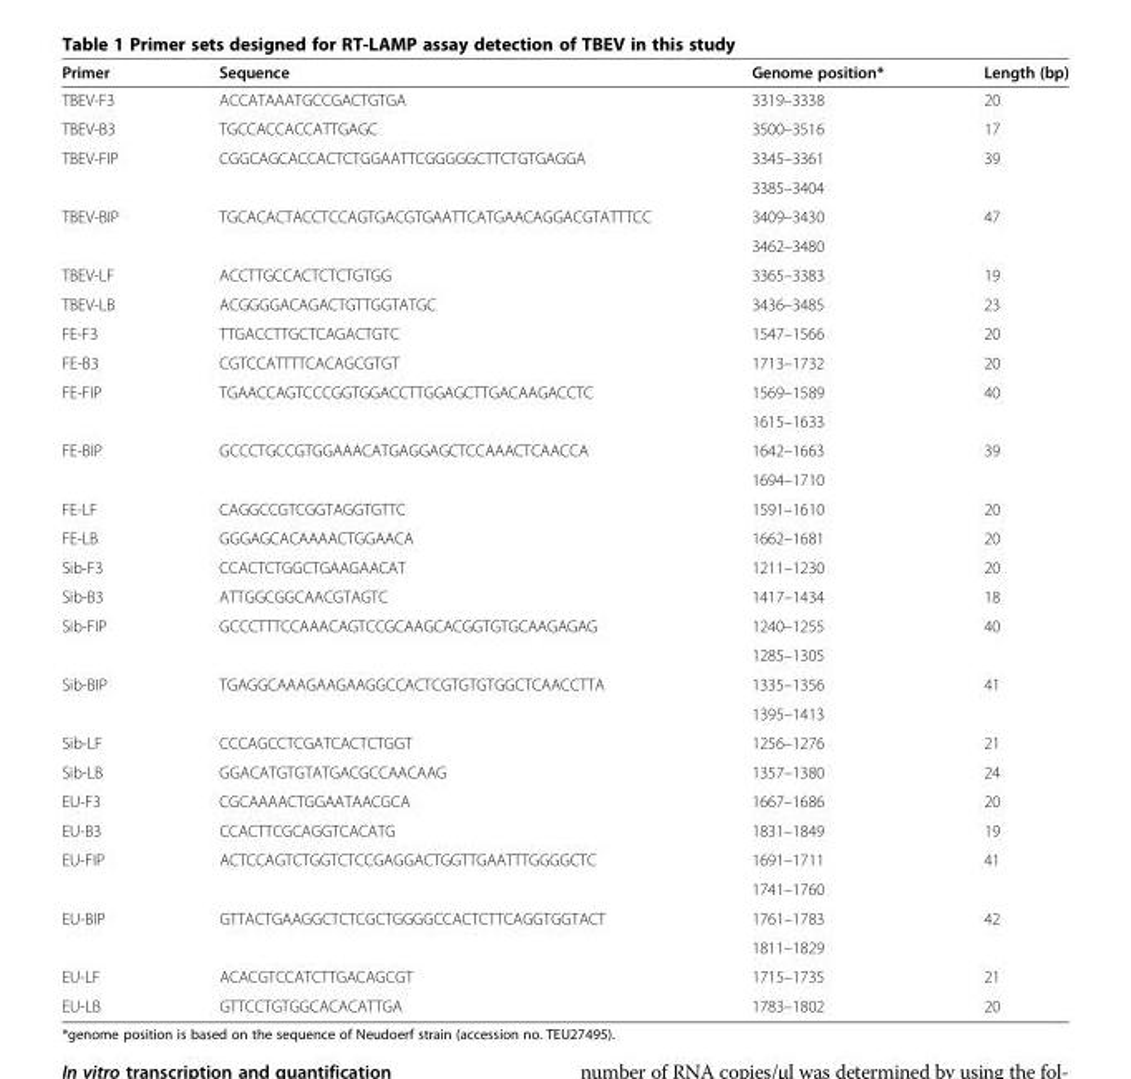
<table><thead><tr><td>Primer</td><td>Sequence</td><td>Genome position*</td><td>Length (bp)</td></tr></thead><tbody><tr><td>TBEV-F3</td><td>ACCATAAATGCCGACTGTGA</td><td>3319–3338</td><td>20</td></tr><tr><td>TBEV-B3</td><td>TGCCACCACCATTGAGC</td><td>3500–3516</td><td>17</td></tr><tr><td rowspan="2">TBEV-FIP</td><td rowspan="2">CGGCAGCACCACTCTGGAATTCGGGGGCTTCTGTGAGGA</td><td>3345–3361</td><td rowspan="2">39</td></tr><tr><td>3385–3404</td></tr><tr><td rowspan="2">TBEV-BIP</td><td rowspan="2">TGCACACTACCTCCAGTGACGTGAATTCATGAACAGGACGTATTTCC</td><td>3409–3430</td><td rowspan="2">47</td></tr><tr><td>3462–3480</td></tr><tr><td>TBEV-LF</td><td>ACCTTGCCACTCTCTGTGG</td><td>3365–3383</td><td>19</td></tr><tr><td>TBEV-LB</td><td>ACGGGGACAGACTGTTGGTATGC</td><td>3436–3485</td><td>23</td></tr><tr><td>FE-F3</td><td>TTGACCTTGCTCAGACTGTC</td><td>1547–1566</td><td>20</td></tr><tr><td>FE-B3</td><td>CGTCCATTTTCACAGCGTGT</td><td>1713–1732</td><td>20</td></tr><tr><td rowspan="2">FE-FIP</td><td rowspan="2">TGAACCAGTCCCGGTGGACCTTGGAGCTTGACAAGACCTC</td><td>1569–1589</td><td rowspan="2">40</td></tr><tr><td>1615–1633</td></tr><tr><td rowspan="2">FE-BIP</td><td rowspan="2">GCCCTGCCGTGGAAACATGAGGAGCTCCAAACTCAACCA</td><td>1642–1663</td><td rowspan="2">39</td></tr><tr><td>1694–1710</td></tr><tr><td>FE-LF</td><td>CAGGCCGTCGGTAGGTGTTC</td><td>1591–1610</td><td>20</td></tr><tr><td>FE-LB</td><td>GGGAGCACAAAACTGGAACA</td><td>1662–1681</td><td>20</td></tr><tr><td>Sib-F3</td><td>CCACTCTGGCTGAAGAACAT</td><td>1211–1230</td><td>20</td></tr><tr><td>Sib-B3</td><td>ATTGGCGGCAACGTAGTC</td><td>1417–1434</td><td>18</td></tr><tr><td rowspan="2">Sib-FIP</td><td rowspan="2">GCCCTTTCCAAACAGTCCGCAAGCACGGTGTGCAAGAGAG</td><td>1240–1255</td><td rowspan="2">40</td></tr><tr><td>1285–1305</td></tr><tr><td rowspan="2">Sib-BIP</td><td rowspan="2">TGAGGCAAAGAAGAAGGCCACTCGTGTGTGGCTCAACCTTA</td><td>1335–1356</td><td rowspan="2">41</td></tr><tr><td>1395–1413</td></tr><tr><td>Sib-LF</td><td>CCCAGCCTCGATCACTCTGGT</td><td>1256–1276</td><td>21</td></tr><tr><td>Sib-LB</td><td>GGACATGTGTATGACGCCAACAAG</td><td>1357–1380</td><td>24</td></tr><tr><td>EU-F3</td><td>CGCAAAACTGGAATAACGCA</td><td>1667–1686</td><td>20</td></tr><tr><td>EU-B3</td><td>CCACTTCGCAGGTCACATG</td><td>1831–1849</td><td>19</td></tr><tr><td rowspan="2">EU-FIP</td><td rowspan="2">ACTCCAGTCTGGTCTCCGAGGACTGGTTGAATTTGGGGCTC</td><td>1691–1711</td><td rowspan="2">41</td></tr><tr><td>1741–1760</td></tr><tr><td rowspan="2">EU-BIP</td><td rowspan="2">GTTACTGAAGGCTCTCGCTGGGGCCACTCTTCAGGTGGTACT</td><td>1761–1783</td><td rowspan="2">42</td></tr><tr><td>1811–1829</td></tr><tr><td>EU-LF</td><td>ACACGTCCATCTTGACAGCGT</td><td>1715–1735</td><td>21</td></tr><tr><td>EU-LB</td><td>GTTCCTGTGGCACACATTGA</td><td>1783–1802</td><td>20</td></tr></tbody></table>